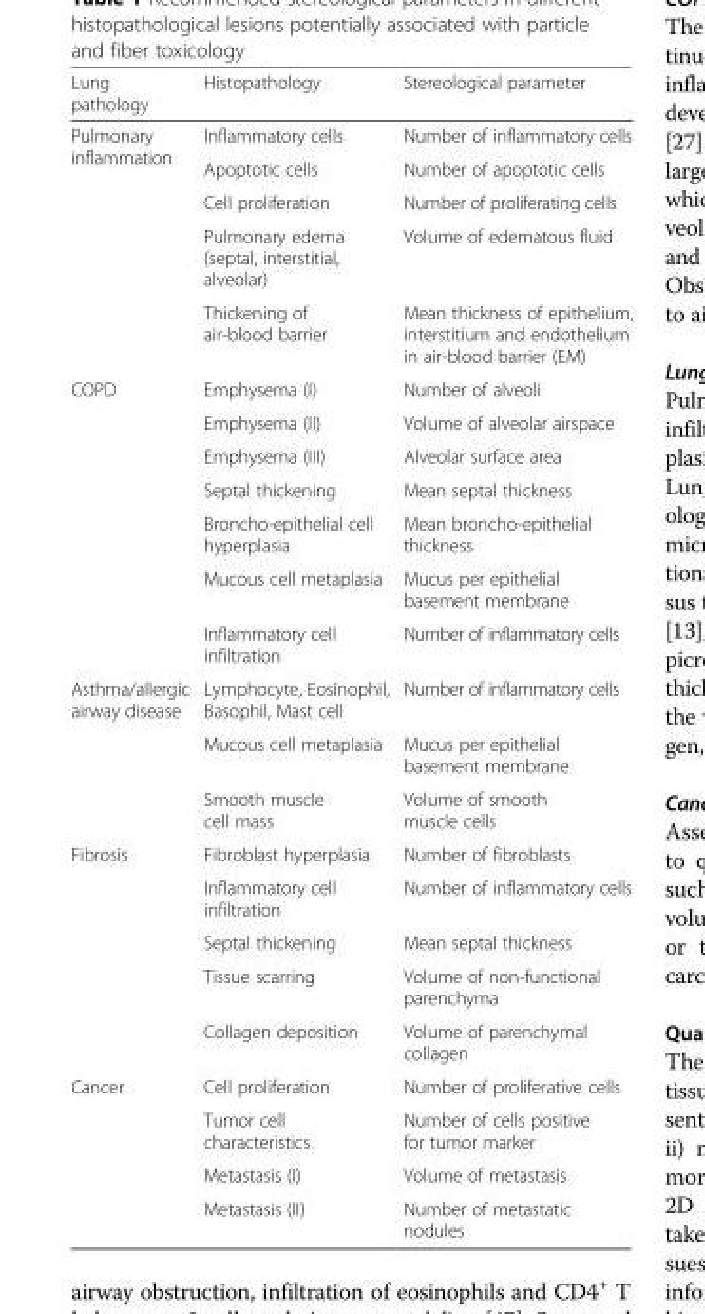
<table><thead><tr><td>Lung pathology</td><td>Histopathology</td><td>Stereological parameter</td></tr></thead><tbody><tr><td rowspan="5">Pulmonary inflammation</td><td>Inflammatory cells</td><td>Number of inflammatory cells</td></tr><tr><td>Apoptotic cells</td><td>Number of apoptotic cells</td></tr><tr><td>Cell proliferation</td><td>Number of proliferating cells</td></tr><tr><td>Pulmonary edema (septal, interstitial, alveolar)</td><td>Volume of edematous fluid</td></tr><tr><td>Thickening of air-blood barrier</td><td>Mean thickness of epithelium, interstitium and endothelium in air-blood barrier (EM)</td></tr><tr><td rowspan="7">COPD</td><td>Emphysema (I)</td><td>Number of alveoli</td></tr><tr><td>Emphysema (II)</td><td>Volume of alveolar airspace</td></tr><tr><td>Emphysema (III)</td><td>Alveolar surface area</td></tr><tr><td>Septal thickening</td><td>Mean septal thickness</td></tr><tr><td>Broncho-epithelial cell hyperplasia</td><td>Mean broncho-epithelial thickness</td></tr><tr><td>Mucous cell metaplasia</td><td>Mucus per epithelial basement membrane</td></tr><tr><td>Inflammatory cell infiltration</td><td>Number of inflammatory cells</td></tr><tr><td rowspan="3">Asthma/allergic airway disease</td><td>Lymphocyte, Eosinophil, Basophil, Mast cell</td><td>Number of inflammatory cells</td></tr><tr><td>Mucous cell metaplasia</td><td>Mucus per epithelial basement membrane</td></tr><tr><td>Smooth muscle cell mass</td><td>Volume of smooth muscle cells</td></tr><tr><td rowspan="5">Fibrosis</td><td>Fibroblast hyperplasia</td><td>Number of fibroblasts</td></tr><tr><td>Inflammatory cell infiltration</td><td>Number of inflammatory cells</td></tr><tr><td>Septal thickening</td><td>Mean septal thickness</td></tr><tr><td>Tissue scarring</td><td>Volume of non-functional parenchyma</td></tr><tr><td>Collagen deposition</td><td>Volume of parenchymal collagen</td></tr><tr><td rowspan="4">Cancer</td><td>Cell proliferation</td><td>Number of proliferative cells</td></tr><tr><td>Tumor cell characteristics</td><td>Number of cells positive for tumor marker</td></tr><tr><td>Metastasis (I)</td><td>Volume of metastasis</td></tr><tr><td>Metastasis (II)</td><td>Number of metastatic nodules</td></tr></tbody></table>